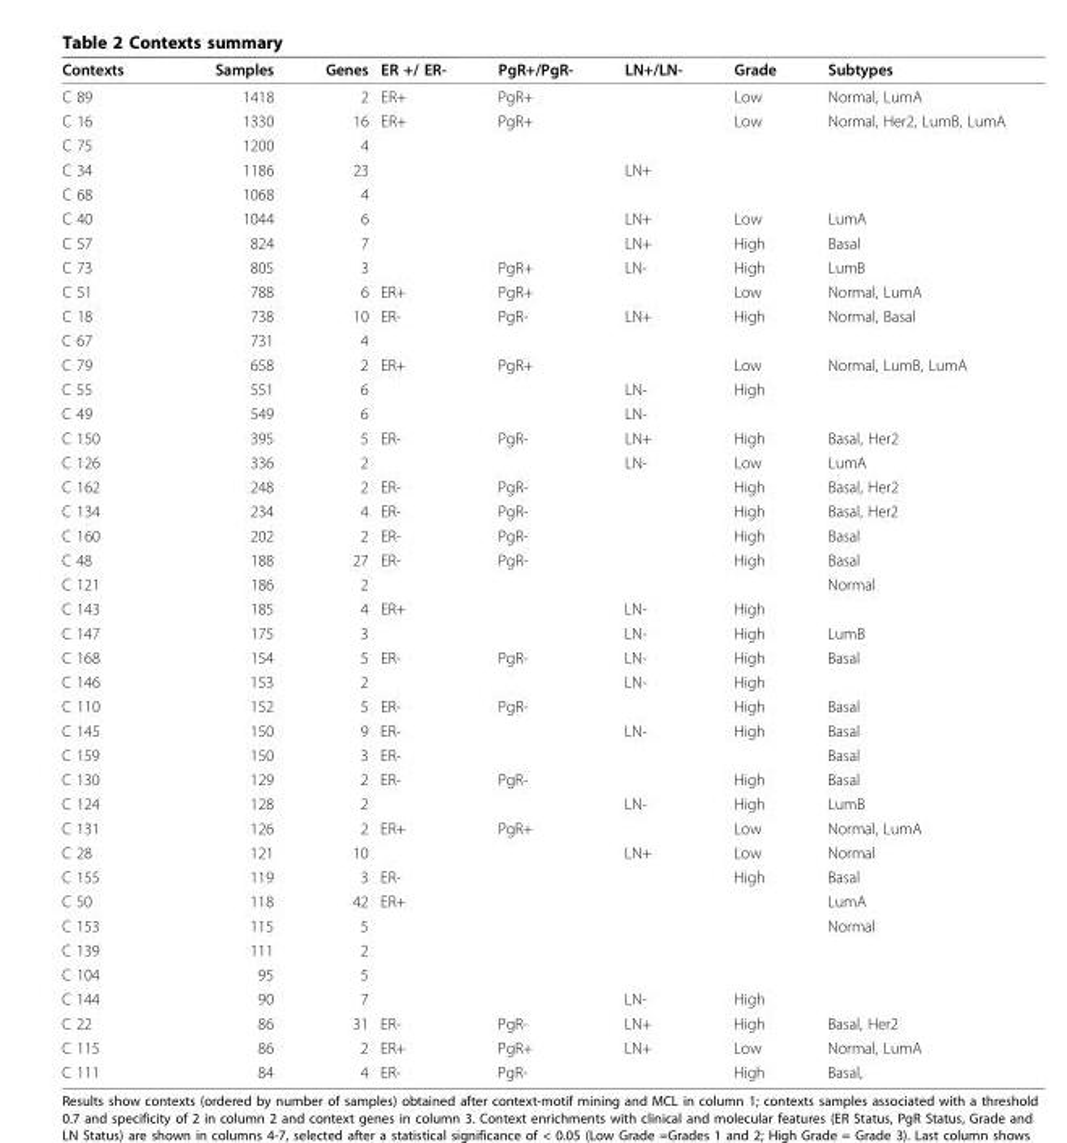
<table><thead><tr><td>Contexts</td><td>Samples</td><td>Genes</td><td>ER +/ ER-</td><td>PgR+/PgR-</td><td>LN+/LN-</td><td>Grade</td><td>Subtypes</td></tr></thead><tbody><tr><td>C 89</td><td>1418</td><td>2</td><td>ER+</td><td>PgR+</td><td></td><td>Low</td><td>Normal, LumA</td></tr><tr><td>C 16</td><td>1330</td><td>16</td><td>ER+</td><td>PgR+</td><td></td><td>Low</td><td>Normal, Her2, LumB, LumA</td></tr><tr><td>C 75</td><td>1200</td><td>4</td><td></td><td></td><td></td><td></td><td></td></tr><tr><td>C 34</td><td>1186</td><td>23</td><td></td><td></td><td>LN+</td><td></td><td></td></tr><tr><td>C 68</td><td>1068</td><td>4</td><td></td><td></td><td></td><td></td><td></td></tr><tr><td>C 40</td><td>1044</td><td>6</td><td></td><td></td><td>LN+</td><td>Low</td><td>LumA</td></tr><tr><td>C 57</td><td>824</td><td>7</td><td></td><td></td><td>LN+</td><td>High</td><td>Basal</td></tr><tr><td>C 73</td><td>805</td><td>3</td><td></td><td>PgR+</td><td>LN-</td><td>High</td><td>LumB</td></tr><tr><td>C 51</td><td>788</td><td>6</td><td>ER+</td><td>PgR+</td><td></td><td>Low</td><td>Normal, LumA</td></tr><tr><td>C 18</td><td>738</td><td>10</td><td>ER-</td><td>PgR-</td><td>LN+</td><td>High</td><td>Normal, Basal</td></tr><tr><td>C 67</td><td>731</td><td>4</td><td></td><td></td><td></td><td></td><td></td></tr><tr><td>C 79</td><td>658</td><td>2</td><td>ER+</td><td>PgR+</td><td></td><td>Low</td><td>Normal, LumB, LumA</td></tr><tr><td>C 55</td><td>551</td><td>6</td><td></td><td></td><td>LN-</td><td>High</td><td></td></tr><tr><td>C 49</td><td>549</td><td>6</td><td></td><td></td><td>LN-</td><td></td><td></td></tr><tr><td>C 150</td><td>395</td><td>5</td><td>ER-</td><td>PgR-</td><td>LN+</td><td>High</td><td>Basal, Her2</td></tr><tr><td>C 126</td><td>336</td><td>2</td><td></td><td></td><td>LN-</td><td>Low</td><td>LumA</td></tr><tr><td>C 162</td><td>248</td><td>2</td><td>ER-</td><td>PgR-</td><td></td><td>High</td><td>Basal, Her2</td></tr><tr><td>C 134</td><td>234</td><td>4</td><td>ER-</td><td>PgR-</td><td></td><td>High</td><td>Basal, Her2</td></tr><tr><td>C 160</td><td>202</td><td>2</td><td>ER-</td><td>PgR-</td><td></td><td>High</td><td>Basal</td></tr><tr><td>C 48</td><td>188</td><td>27</td><td>ER-</td><td>PgR-</td><td></td><td>High</td><td>Basal</td></tr><tr><td>C 121</td><td>186</td><td>2</td><td></td><td></td><td></td><td></td><td>Normal</td></tr><tr><td>C 143</td><td>185</td><td>4</td><td>ER+</td><td></td><td>LN-</td><td>High</td><td></td></tr><tr><td>C 147</td><td>175</td><td>3</td><td></td><td></td><td>LN-</td><td>High</td><td>LumB</td></tr><tr><td>C 168</td><td>154</td><td>5</td><td>ER-</td><td>PgR-</td><td>LN-</td><td>High</td><td>Basal</td></tr><tr><td>C 146</td><td>153</td><td>2</td><td></td><td></td><td>LN-</td><td>High</td><td></td></tr><tr><td>C 110</td><td>152</td><td>5</td><td>ER-</td><td>PgR-</td><td></td><td>High</td><td>Basal</td></tr><tr><td>C 145</td><td>150</td><td>9</td><td>ER-</td><td></td><td>LN-</td><td>High</td><td>Basal</td></tr><tr><td>C 159</td><td>150</td><td>3</td><td>ER-</td><td></td><td></td><td></td><td>Basal</td></tr><tr><td>C 130</td><td>129</td><td>2</td><td>ER-</td><td>PgR-</td><td></td><td>High</td><td>Basal</td></tr><tr><td>C 124</td><td>128</td><td>2</td><td></td><td></td><td>LN-</td><td>High</td><td>LumB</td></tr><tr><td>C 131</td><td>126</td><td>2</td><td>ER+</td><td>PgR+</td><td></td><td>Low</td><td>Normal, LumA</td></tr><tr><td>C 28</td><td>121</td><td>10</td><td></td><td></td><td>LN+</td><td>Low</td><td>Normal</td></tr><tr><td>C 155</td><td>119</td><td>3</td><td>ER-</td><td></td><td></td><td>High</td><td>Basal</td></tr><tr><td>C 50</td><td>118</td><td>42</td><td>ER+</td><td></td><td></td><td></td><td>LumA</td></tr><tr><td>C 153</td><td>115</td><td>5</td><td></td><td></td><td></td><td></td><td>Normal</td></tr><tr><td>C 139</td><td>111</td><td>2</td><td></td><td></td><td></td><td></td><td></td></tr><tr><td>C 104</td><td>95</td><td>5</td><td></td><td></td><td></td><td></td><td></td></tr><tr><td>C 144</td><td>90</td><td>7</td><td></td><td></td><td>LN-</td><td>High</td><td></td></tr><tr><td>C 22</td><td>86</td><td>31</td><td>ER-</td><td>PgR-</td><td>LN+</td><td>High</td><td>Basal, Her2</td></tr><tr><td>C 115</td><td>86</td><td>2</td><td>ER+</td><td>PgR+</td><td>LN+</td><td>Low</td><td>Normal, LumA</td></tr><tr><td>C 111</td><td>84</td><td>4</td><td>ER-</td><td>PgR-</td><td></td><td>High</td><td>Basal,</td></tr></tbody></table>